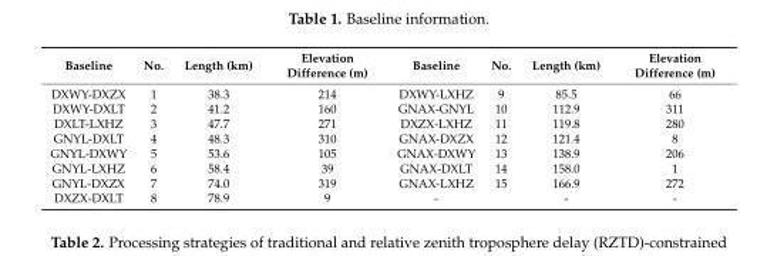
<table><thead><tr><td>Baseline</td><td>No.</td><td>Length (km)</td><td>Elevation Difference (m)</td><td>Baseline</td><td>No.</td><td>Length (km)</td><td>Elevation Difference (m)</td></tr></thead><tbody><tr><td>DXWY-DXZX</td><td>1</td><td>38.3</td><td>214</td><td>DXWY-LXHZ</td><td>9</td><td>85.5</td><td>66</td></tr><tr><td>DXWY-DXLT</td><td>2</td><td>41.2</td><td>160</td><td>GNAX-GNYL</td><td>10</td><td>112.9</td><td>311</td></tr><tr><td>DXLT-LXHZ</td><td>3</td><td>47.7</td><td>271</td><td>DXZX-LXHZ</td><td>11</td><td>119.8</td><td>280</td></tr><tr><td>GNYL-DXLT</td><td>4</td><td>48.3</td><td>310</td><td>GNAX-DXZX</td><td>12</td><td>121.4</td><td>8</td></tr><tr><td>GNYL-DXWY</td><td>5</td><td>53.6</td><td>105</td><td>GNAX-DXWY</td><td>13</td><td>138.9</td><td>206</td></tr><tr><td>GNYL-LXHZ</td><td>6</td><td>58.4</td><td>39</td><td>GNAX-DXLT</td><td>14</td><td>158.0</td><td>1</td></tr><tr><td>GNYL-DXZX</td><td>7</td><td>74.0</td><td>319</td><td>GNAX-LXHZ</td><td>15</td><td>166.9</td><td>272</td></tr><tr><td>DXZX-DXLT</td><td>8</td><td>78.9</td><td>9</td><td>-</td><td></td><td>-</td><td>-</td></tr></tbody></table>